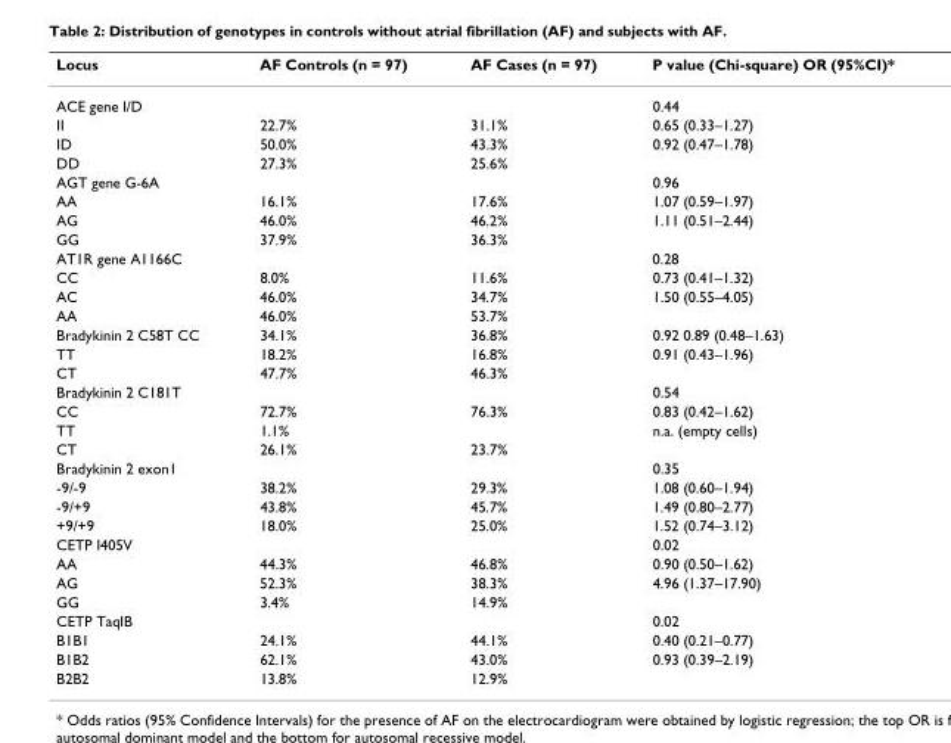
<table><thead><tr><td>Locus</td><td>AF Controls (n = 97)</td><td>AF Cases (n = 97)</td><td>P value (Chi-square) OR (95%CI)*</td></tr></thead><tbody><tr><td>ACE gene I/D</td><td></td><td></td><td>0.44</td></tr><tr><td>II</td><td>22.7%</td><td>31.1%</td><td>0.65 (0.33–1.27)</td></tr><tr><td>ID</td><td>50.0%</td><td>43.3%</td><td>0.92 (0.47–1.78)</td></tr><tr><td>DD</td><td>27.3%</td><td>25.6%</td><td></td></tr><tr><td>AGT gene G-6A</td><td></td><td></td><td>0.96</td></tr><tr><td>AA</td><td>16.1%</td><td>17.6%</td><td>1.07 (0.59–1.97)</td></tr><tr><td>AG</td><td>46.0%</td><td>46.2%</td><td>1.11 (0.51–2.44)</td></tr><tr><td>GG</td><td>37.9%</td><td>36.3%</td><td></td></tr><tr><td>AT1R gene A1166C</td><td></td><td></td><td>0.28</td></tr><tr><td>CC</td><td>8.0%</td><td>11.6%</td><td>0.73 (0.41–1.32)</td></tr><tr><td>AC</td><td>46.0%</td><td>34.7%</td><td>1.50 (0.55–4.05)</td></tr><tr><td>AA</td><td>46.0%</td><td>53.7%</td><td></td></tr><tr><td>Bradykinin 2 C58T CC</td><td>34.1%</td><td>36.8%</td><td>0.92 0.89 (0.48–1.63)</td></tr><tr><td>TT</td><td>18.2%</td><td>16.8%</td><td>0.91 (0.43–1.96)</td></tr><tr><td>CT</td><td>47.7%</td><td>46.3%</td><td></td></tr><tr><td>Bradykinin 2 C181T</td><td></td><td></td><td>0.54</td></tr><tr><td>CC</td><td>72.7%</td><td>76.3%</td><td>0.83 (0.42–1.62)</td></tr><tr><td>TT</td><td>1.1%</td><td></td><td>n.a. (empty cells)</td></tr><tr><td>CT</td><td>26.1%</td><td>23.7%</td><td></td></tr><tr><td>Bradykinin 2 exon1</td><td></td><td></td><td>0.35</td></tr><tr><td>-9/-9</td><td>38.2%</td><td>29.3%</td><td>1.08 (0.60–1.94)</td></tr><tr><td>-9/+9</td><td>43.8%</td><td>45.7%</td><td>1.49 (0.80–2.77)</td></tr><tr><td>+9/+9</td><td>18.0%</td><td>25.0%</td><td>1.52 (0.74–3.12)</td></tr><tr><td>CETP I405V</td><td></td><td></td><td>0.02</td></tr><tr><td>AA</td><td>44.3%</td><td>46.8%</td><td>0.90 (0.50–1.62)</td></tr><tr><td>AG</td><td>52.3%</td><td>38.3%</td><td>4.96 (1.37–17.90)</td></tr><tr><td>GG</td><td>3.4%</td><td>14.9%</td><td></td></tr><tr><td>CETP TaqIB</td><td></td><td></td><td>0.02</td></tr><tr><td>B1B1</td><td>24.1%</td><td>44.1%</td><td>0.40 (0.21–0.77)</td></tr><tr><td>B1B2</td><td>62.1%</td><td>43.0%</td><td>0.93 (0.39–2.19)</td></tr><tr><td>B2B2</td><td>13.8%</td><td>12.9%</td><td></td></tr></tbody></table>